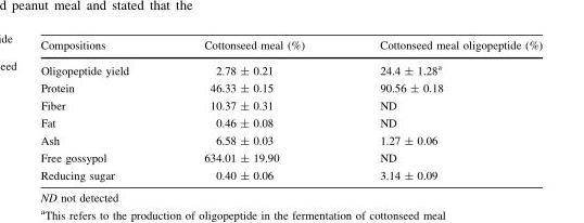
<table><thead><tr><td>Compositions</td><td>Cottonseed meal (%)</td><td>Cottonseed meal oligopeptide (%)</td></tr></thead><tbody><tr><td>Oligopeptide yield</td><td>2.78 ± 0.21</td><td>24.4 ± 1.28<sup>a</sup></td></tr><tr><td>Protein</td><td>46.33 ± 0.15</td><td>90.56 ± 0.18</td></tr><tr><td>Fiber</td><td>10.37 ± 0.31</td><td>ND</td></tr><tr><td>Fat</td><td>0.46 ± 0.08</td><td>ND</td></tr><tr><td>Ash</td><td>6.58 ± 0.03</td><td>1.27 ± 0.06</td></tr><tr><td>Free gossypol</td><td>634.01 ± 19.90</td><td>ND</td></tr><tr><td>Reducing sugar</td><td>0.40 ± 0.06</td><td>3.14 ± 0.09</td></tr></tbody></table>